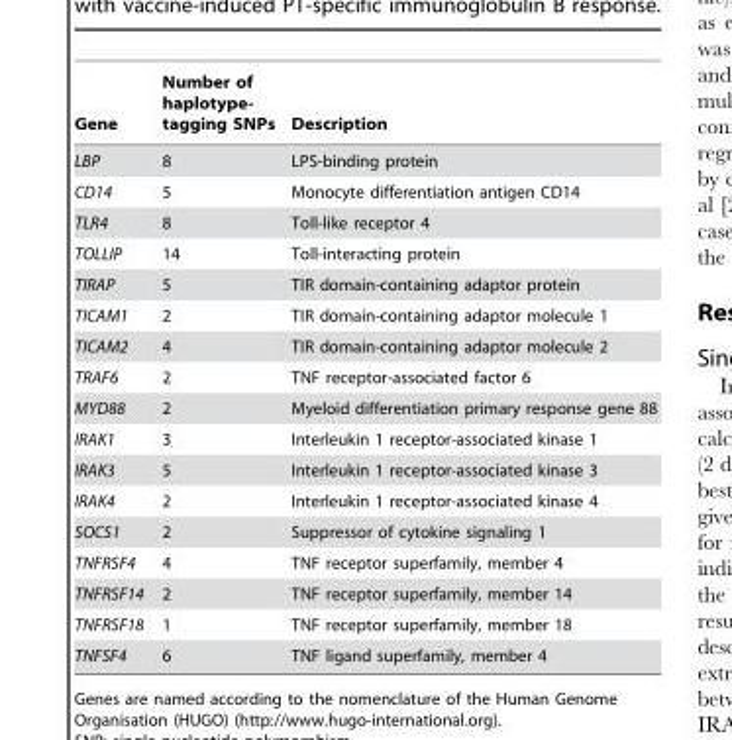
<table><thead><tr><td>Gene</td><td>Number of haplotype- tagging SNPs</td><td>Description</td></tr></thead><tbody><tr><td>LBP</td><td>8</td><td>LPS-binding protein</td></tr><tr><td>CD14</td><td>5</td><td>Monocyte differentiation antigen CD14</td></tr><tr><td>TLR4</td><td>8</td><td>Toll-like receptor 4</td></tr><tr><td>TOLLIP</td><td>14</td><td>Toll-interacting protein</td></tr><tr><td>TIRAP</td><td>5</td><td>TIR domain-containing adaptor protein</td></tr><tr><td>TICAM1</td><td>2</td><td>TIR domain-containing adaptor molecule 1</td></tr><tr><td>TICAM2</td><td>4</td><td>TIR domain-containing adaptor molecule 2</td></tr><tr><td>TRAF6</td><td>2</td><td>TNF receptor-associated factor 6</td></tr><tr><td>MYD88</td><td>2</td><td>Myeloid differentiation primary response gene 88</td></tr><tr><td>IRAK1</td><td>3</td><td>Interleukin 1 receptor-associated kinase 1</td></tr><tr><td>IRAK3</td><td>5</td><td>Interleukin 1 receptor-associated kinase 3</td></tr><tr><td>IRAK4</td><td>2</td><td>Interleukin 1 receptor-associated kinase 4</td></tr><tr><td>SOCS1</td><td>2</td><td>Suppressor of cytokine signaling 1</td></tr><tr><td>TNFRSF4</td><td>4</td><td>TNF receptor superfamily, member 4</td></tr><tr><td>TNFRSF14</td><td>2</td><td>TNF receptor superfamily, member 14</td></tr><tr><td>TNFRSF18</td><td>1</td><td>TNF receptor superfamily, member 18</td></tr><tr><td>TNFSF4</td><td>6</td><td>TNF ligand superfamily, member 4</td></tr></tbody></table>